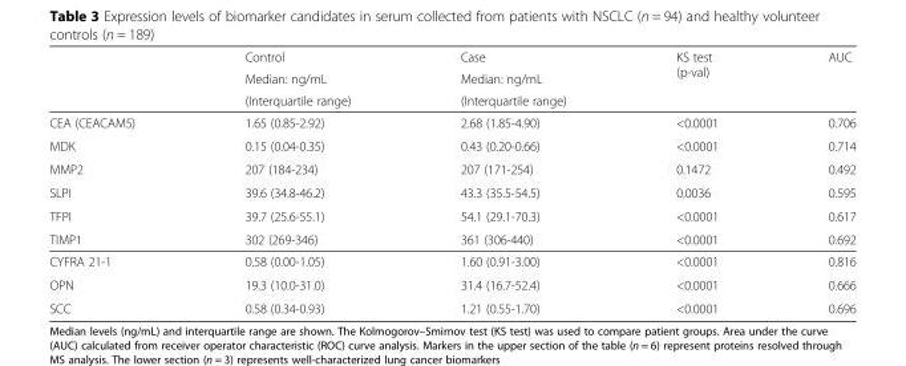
<table><thead><tr><td rowspan="3"></td><td rowspan="3">Control Median: ng/mL (Interquartile range)</td><td rowspan="3">Case Median: ng/mL (Interquartile range)</td><td rowspan="3">KS test (p-val)</td><td rowspan="3">AUC</td></tr><tr></tr><tr></tr></thead><tbody><tr><td>CEA (CEACAM5)</td><td>1.65 (0.85-2.92)</td><td>2.68 (1.85-4.90)</td><td>&lt;0.0001</td><td>0.706</td></tr><tr><td>MDK</td><td>0.15 (0.04-0.35)</td><td>0.43 (0.20-0.66)</td><td>&lt;0.0001</td><td>0.714</td></tr><tr><td>MMP2</td><td>207 (184-234)</td><td>207 (171-254)</td><td>0.1472</td><td>0.492</td></tr><tr><td>SLPI</td><td>39.6 (34.8-46.2)</td><td>43.3 (35.5-54.5)</td><td>0.0036</td><td>0.595</td></tr><tr><td>TFPI</td><td>39.7 (25.6-55.1)</td><td>54.1 (29.1-70.3)</td><td>&lt;0.0001</td><td>0.617</td></tr><tr><td>TIMP1</td><td>302 (269-346)</td><td>361 (306-440)</td><td>&lt;0.0001</td><td>0.692</td></tr><tr><td>CYFRA 21-1</td><td>0.58 (0.00-1.05)</td><td>1.60 (0.91-3.00)</td><td>&lt;0.0001</td><td>0.816</td></tr><tr><td>OPN</td><td>19.3 (10.0-31.0)</td><td>31.4 (16.7-52.4)</td><td>&lt;0.0001</td><td>0.666</td></tr><tr><td>SCC</td><td>0.58 (0.34-0.93)</td><td>1.21 (0.55-1.70)</td><td>&lt;0.0001</td><td>0.696</td></tr></tbody></table>